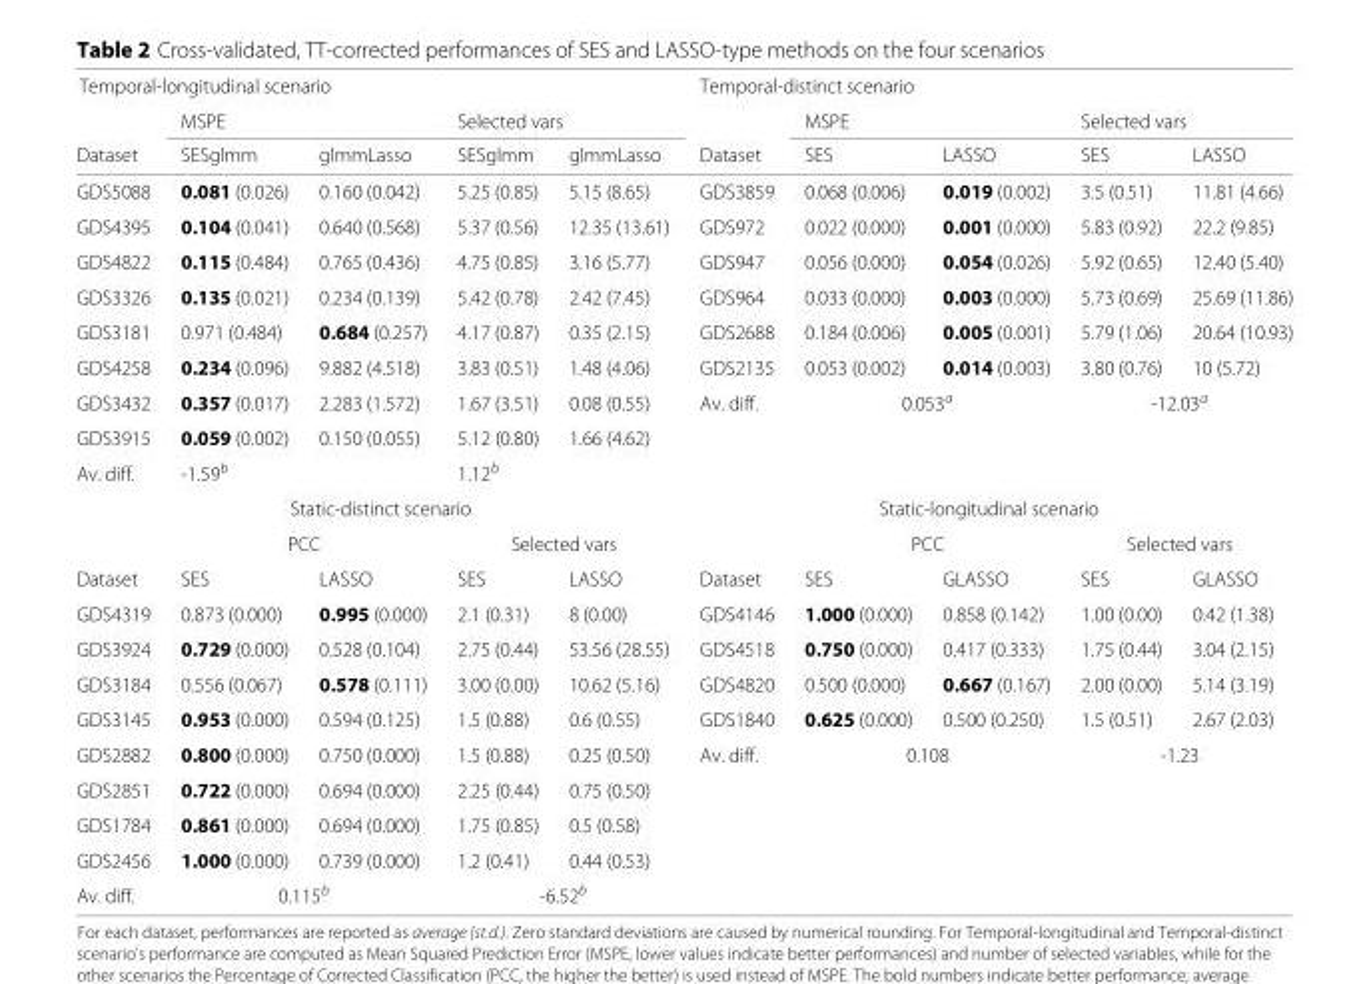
<table><thead><tr><td colspan="5">Temporal-longitudinal scenario</td><td colspan="5">Temporal-distinct scenario</td></tr><tr><td rowspan="2">Dataset</td><td colspan="2">MSPE</td><td colspan="2">Selected vars</td><td rowspan="2">Dataset</td><td colspan="2">MSPE</td><td colspan="2">Selected vars</td></tr><tr><td>SESglmm</td><td>glmmLasso</td><td>SESglmm</td><td>glmmLasso</td><td>SES</td><td>LASSO</td><td>SES</td><td>LASSO</td></tr></thead><tbody><tr><td>GDS5088</td><td>0.081 (0.026)</td><td>0.160 (0.042)</td><td>5.25 (0.85)</td><td>5.15 (8.65)</td><td>GDS3859</td><td>0.068 (0.006)</td><td>0.019 (0.002)</td><td>3.5 (0.51)</td><td>11.81 (4.66)</td></tr><tr><td>GDS4395</td><td>0.104 (0.041)</td><td>0.640 (0.568)</td><td>5.37 (0.56)</td><td>12.35 (13.61)</td><td>GDS972</td><td>0.022 (0.000)</td><td>0.001 (0.000)</td><td>5.83 (0.92)</td><td>22.2 (9.85)</td></tr><tr><td>GDS4822</td><td>0.115 (0.484)</td><td>0.765 (0.436)</td><td>4.75 (0.85)</td><td>3.16 (5.77)</td><td>GDS947</td><td>0.056 (0.000)</td><td>0.054 (0.026)</td><td>5.92 (0.65)</td><td>12.40 (5.40)</td></tr><tr><td>GDS3326</td><td>0.135 (0.021)</td><td>0.234 (0.139)</td><td>5.42 (0.78)</td><td>2.42 (7.45)</td><td>GDS964</td><td>0.033 (0.000)</td><td>0.003 (0.000)</td><td>5.73 (0.69)</td><td>25.69 (11.86)</td></tr><tr><td>GDS3181</td><td>0.971 (0.484)</td><td>0.684 (0.257)</td><td>4.17 (0.87)</td><td>0.35 (2.15)</td><td>GDS2688</td><td>0.184 (0.006)</td><td>0.005 (0.001)</td><td>5.79 (1.06)</td><td>20.64 (10.93)</td></tr><tr><td>GDS4258</td><td>0.234 (0.096)</td><td>9.882 (4.518)</td><td>3.83 (0.51)</td><td>1.48 (4.06)</td><td>GDS2135</td><td>0.053 (0.002)</td><td>0.014 (0.003)</td><td>3.80 (0.76)</td><td>10 (5.72)</td></tr><tr><td>GDS3432</td><td>0.357 (0.017)</td><td>2.283 (1.572)</td><td>1.67 (3.51)</td><td>0.08 (0.55)</td><td>Av. diff.</td><td colspan="2">0.053<sup>a</sup></td><td colspan="2">-12.03<sup>a</sup></td></tr><tr><td>GDS3915</td><td>0.059 (0.002)</td><td>0.150 (0.055)</td><td>5.12 (0.80)</td><td>1.66 (4.62)</td><td colspan="5"></td></tr><tr><td>Av. diff.</td><td colspan="2">-1.59<sup>b</sup></td><td colspan="2">1.12<sup>b</sup></td><td colspan="5"></td></tr><tr><td colspan="5">Static-distinct scenario</td><td colspan="5">Static-longitudinal scenario</td></tr><tr><td></td><td colspan="2">PCC</td><td colspan="2">Selected vars</td><td></td><td colspan="2">PCC</td><td colspan="2">Selected vars</td></tr><tr><td>Dataset</td><td>SES</td><td>LASSO</td><td>SES</td><td>LASSO</td><td>Dataset</td><td>SES</td><td>GLASSO</td><td>SES</td><td>GLASSO</td></tr><tr><td>GDS4319</td><td>0.873 (0.000)</td><td>0.995 (0.000)</td><td>2.1 (0.31)</td><td>8 (0.00)</td><td>GDS4146</td><td>1.000 (0.000)</td><td>0.858 (0.142)</td><td>1.00 (0.00)</td><td>0.42 (1.38)</td></tr><tr><td>GDS3924</td><td>0.729 (0.000)</td><td>0.528 (0.104)</td><td>2.75 (0.44)</td><td>53.56 (28.55)</td><td>GDS4518</td><td>0.750 (0.000)</td><td>0.417 (0.333)</td><td>1.75 (0.44)</td><td>3.04 (2.15)</td></tr><tr><td>GDS3184</td><td>0.556 (0.067)</td><td>0.578 (0.111)</td><td>3.00 (0.00)</td><td>10.62 (5.16)</td><td>GDS4820</td><td>0.500 (0.000)</td><td>0.667 (0.167)</td><td>2.00 (0.00)</td><td>5.14 (3.19)</td></tr><tr><td>GDS3145</td><td>0.953 (0.000)</td><td>0.594 (0.125)</td><td>1.5 (0.88)</td><td>0.6 (0.55)</td><td>GDS1840</td><td>0.625 (0.000)</td><td>0.500 (0.250)</td><td>1.5 (0.51)</td><td>2.67 (2.03)</td></tr><tr><td>GDS2882</td><td>0.800 (0.000)</td><td>0.750 (0.000)</td><td>1.5 (0.88)</td><td>0.25 (0.50)</td><td>Av. diff.</td><td colspan="2">0.108</td><td colspan="2">-1.23</td></tr><tr><td>GDS2851</td><td>0.722 (0.000)</td><td>0.694 (0.000)</td><td>2.25 (0.44)</td><td>0.75 (0.50)</td><td colspan="5"></td></tr><tr><td>GDS1784</td><td>0.861 (0.000)</td><td>0.694 (0.000)</td><td>1.75 (0.85)</td><td>0.5 (0.58)</td><td colspan="5"></td></tr><tr><td>GDS2456</td><td>1.000 (0.000)</td><td>0.739 (0.000)</td><td>1.2 (0.41)</td><td>0.44 (0.53)</td><td colspan="5"></td></tr><tr><td>Av. diff.</td><td colspan="2">0.115<sup>b</sup></td><td colspan="2">-6.52<sup>b</sup></td><td colspan="5"></td></tr></tbody></table>